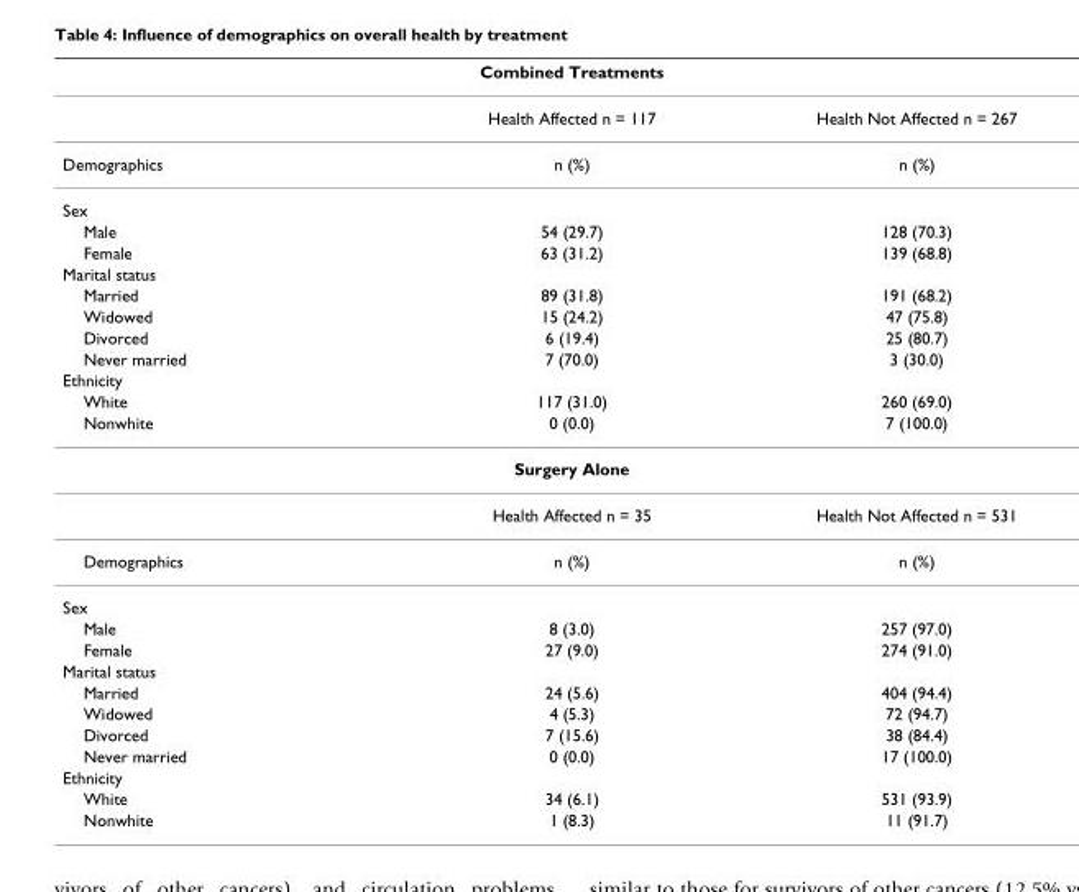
<table><thead><tr><td colspan="3">Combined Treatments</td></tr><tr><td></td><td>Health Affected n = 117</td><td>Health Not Affected n = 267</td></tr></thead><tbody><tr><td>Demographics</td><td>n (%)</td><td>n (%)</td></tr><tr><td colspan="3">Sex</td></tr><tr><td>Male</td><td>54 (29.7)</td><td>128 (70.3)</td></tr><tr><td>Female</td><td>63 (31.2)</td><td>139 (68.8)</td></tr><tr><td colspan="3">Marital status</td></tr><tr><td>Married</td><td>89 (31.8)</td><td>191 (68.2)</td></tr><tr><td>Widowed</td><td>15 (24.2)</td><td>47 (75.8)</td></tr><tr><td>Divorced</td><td>6 (19.4)</td><td>25 (80.7)</td></tr><tr><td>Never married</td><td>7 (70.0)</td><td>3 (30.0)</td></tr><tr><td colspan="3">Ethnicity</td></tr><tr><td>White</td><td>117 (31.0)</td><td>260 (69.0)</td></tr><tr><td>Nonwhite</td><td>0 (0.0)</td><td>7 (100.0)</td></tr><tr><td colspan="3">Surgery Alone</td></tr><tr><td></td><td>Health Affected n = 35</td><td>Health Not Affected n = 531</td></tr><tr><td>Demographics</td><td>n (%)</td><td>n (%)</td></tr><tr><td colspan="3">Sex</td></tr><tr><td>Male</td><td>8 (3.0)</td><td>257 (97.0)</td></tr><tr><td>Female</td><td>27 (9.0)</td><td>274 (91.0)</td></tr><tr><td colspan="3">Marital status</td></tr><tr><td>Married</td><td>24 (5.6)</td><td>404 (94.4)</td></tr><tr><td>Widowed</td><td>4 (5.3)</td><td>72 (94.7)</td></tr><tr><td>Divorced</td><td>7 (15.6)</td><td>38 (84.4)</td></tr><tr><td>Never married</td><td>0 (0.0)</td><td>17 (100.0)</td></tr><tr><td colspan="3">Ethnicity</td></tr><tr><td>White</td><td>34 (6.1)</td><td>531 (93.9)</td></tr><tr><td>Nonwhite</td><td>1 (8.3)</td><td>11 (91.7)</td></tr></tbody></table>